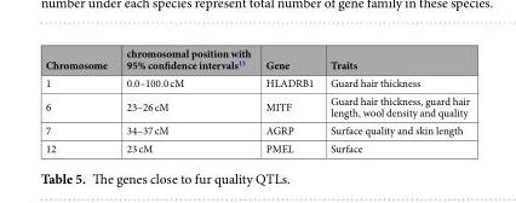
<table><thead><tr><td>Chromosome</td><td>chromosomal position with 95% confidence intervals<sup>13</sup></td><td>Gene</td><td>Traits</td></tr></thead><tbody><tr><td>1</td><td>0.0–100.0 cM</td><td>HLADRB1</td><td>Guard hair thickness</td></tr><tr><td>6</td><td>23–26 cM</td><td>MITF</td><td>Guard hair thickness, guard hair length, wool density and quality</td></tr><tr><td>7</td><td>34–37 cM</td><td>AGRP</td><td>Surface quality and skin length</td></tr><tr><td>12</td><td>23 cM</td><td>PMEL</td><td>Surface</td></tr></tbody></table>